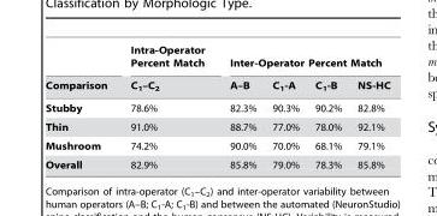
<table><thead><tr><td rowspan="2">Comparison</td><td rowspan="2">Intra-Operator Percent Match C<sub>1</sub>–C<sub>2</sub></td><td colspan="4">Inter-Operator Percent Match</td></tr><tr><td>A–B</td><td>C<sub>1</sub>-A</td><td>C<sub>1</sub>-B</td><td>NS-HC</td></tr></thead><tbody><tr><td>Stubby</td><td>78.6%</td><td>82.3%</td><td>90.3%</td><td>90.2%</td><td>82.8%</td></tr><tr><td>Thin</td><td>91.0%</td><td>88.7%</td><td>77.0%</td><td>78.0%</td><td>92.1%</td></tr><tr><td>Mushroom</td><td>74.2%</td><td>90.0%</td><td>70.0%</td><td>68.1%</td><td>79.1%</td></tr><tr><td>Overall</td><td>82.9%</td><td>85.8%</td><td>79.0%</td><td>78.3%</td><td>85.8%</td></tr></tbody></table>